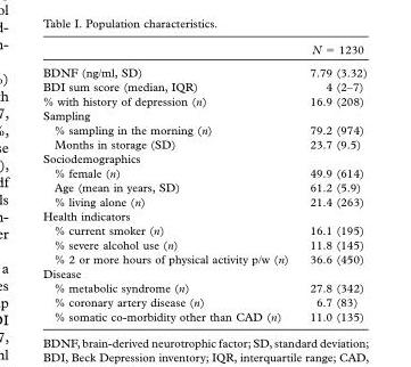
<table><thead><tr><td></td><td>N = 1230</td></tr></thead><tbody><tr><td>BDNF (ng/ml, SD)</td><td>7.79 (3.32)</td></tr><tr><td>BDI sum score (median, IQR)</td><td>4 (2 – 7)</td></tr><tr><td>% with history of depression ( n )</td><td>16.9 (208)</td></tr><tr><td colspan="2">Sampling</td></tr><tr><td>% sampling in the morning ( n )</td><td>79.2 (974)</td></tr><tr><td>Months in storage (SD)</td><td>23.7 (9.5)</td></tr><tr><td colspan="2">Sociodemographics</td></tr><tr><td>% female ( n )</td><td>49.9 (614)</td></tr><tr><td>Age (mean in years, SD)</td><td>61.2 (5.9)</td></tr><tr><td>% living alone ( n )</td><td>21.4 (263)</td></tr><tr><td colspan="2">Health indicators</td></tr><tr><td>% current smoker ( n )</td><td>16.1 (195)</td></tr><tr><td>% severe alcohol use ( n )</td><td>11.8 (145)</td></tr><tr><td>% 2 or more hours of physical activity p/w ( n )</td><td>36.6 (450)</td></tr><tr><td colspan="2">Disease</td></tr><tr><td>% metabolic syndrome ( n )</td><td>27.8 (342)</td></tr><tr><td>% coronary artery disease ( n )</td><td>6.7 (83)</td></tr><tr><td>% somatic co-morbidity other than CAD ( n )</td><td>11.0 (135)</td></tr></tbody></table>